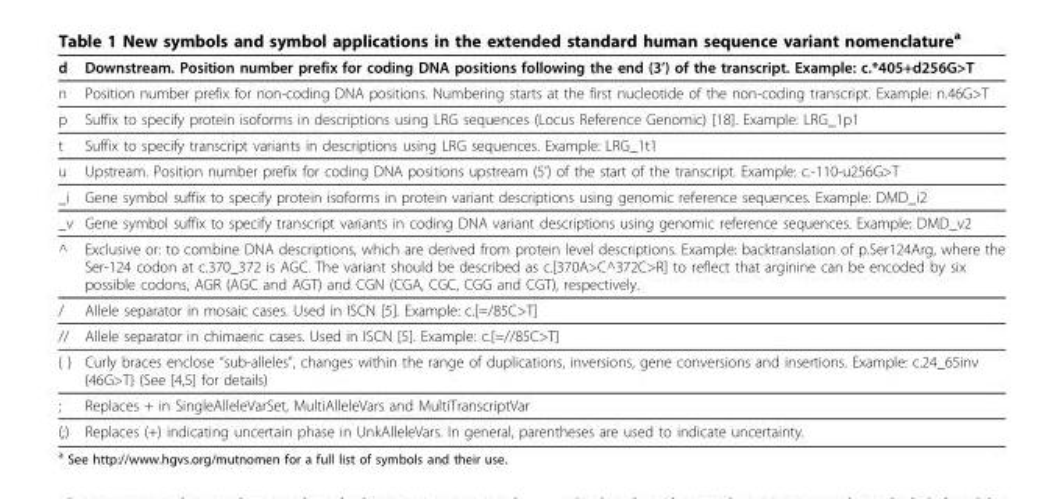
<table><thead><tr><td>d</td><td>Downstream. Position number prefix for coding DNA positions following the end (3’) of the transcript. Example: c.*405+d256G&gt;T</td></tr></thead><tbody><tr><td>n</td><td>Position number prefix for non-coding DNA positions. Numbering starts at the first nucleotide of the non-coding transcript. Example: n.46G&gt;T</td></tr><tr><td>p</td><td>Suffix to specify protein isoforms in descriptions using LRG sequences (Locus Reference Genomic) [18]. Example: LRG_1p1</td></tr><tr><td>t</td><td>Suffix to specify transcript variants in descriptions using LRG sequences. Example: LRG_1t1</td></tr><tr><td>u</td><td>Upstream. Position number prefix for coding DNA positions upstream (5’) of the start of the transcript. Example: c.-110-u256G&gt;T</td></tr><tr><td>_i</td><td>Gene symbol suffix to specify protein isoforms in protein variant descriptions using genomic reference sequences. Example: DMD_i2</td></tr><tr><td>_v</td><td>Gene symbol suffix to specify transcript variants in coding DNA variant descriptions using genomic reference sequences. Example: DMD_v2</td></tr><tr><td>^</td><td>Exclusive or: to combine DNA descriptions, which are derived from protein level descriptions. Example: backtranslation of p.Ser124Arg, where the Ser-124 codon at c.370_372 is AGC. The variant should be described as c.[370A&gt;C^372C&gt;R] to reflect that arginine can be encoded by six possible codons, AGR (AGC and AGT) and CGN (CGA, CGC, CGG and CGT), respectively.</td></tr><tr><td>/</td><td>Allele separator in mosaic cases. Used in ISCN [5]. Example: c.[=/85C&gt;T]</td></tr><tr><td>//</td><td>Allele separator in chimaeric cases. Used in ISCN [5]. Example: c.[=//85C&gt;T]</td></tr><tr><td>{ }</td><td>Curly braces enclose “sub-alleles”, changes within the range of duplications, inversions, gene conversions and insertions. Example: c.24_65inv {46G&gt;T} (See [4,5] for details)</td></tr><tr><td>;</td><td>Replaces + in SingleAlleleVarSet, MultiAlleleVars and MultiTranscriptVar</td></tr><tr><td>(;)</td><td>Replaces (+) indicating uncertain phase in UnkAlleleVars. In general, parentheses are used to indicate uncertainty.</td></tr></tbody></table>